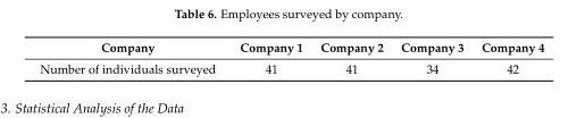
<table><thead><tr><td>Company</td><td>Company 1</td><td>Company 2</td><td>Company 3</td><td>Company 4</td></tr></thead><tbody><tr><td>Number of individuals surveyed</td><td>41</td><td>41</td><td>34</td><td>42</td></tr></tbody></table>